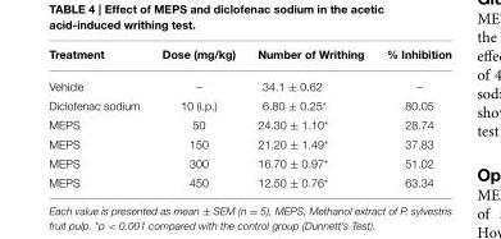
<table><thead><tr><td>Treatment</td><td>Dose (mg/kg)</td><td>Number of Writhing</td><td>% Inhibition</td></tr></thead><tbody><tr><td>Vehicle</td><td>–</td><td>34.1 ± 0.62</td><td>–</td></tr><tr><td>Diclofenac sodium</td><td>10 (i.p.)</td><td>6.80 ± 0.25*</td><td>80.05</td></tr><tr><td>MEPS</td><td>50</td><td>24.30 ± 1.10*</td><td>28.74</td></tr><tr><td>MEPS</td><td>150</td><td>21.20 ± 1.49*</td><td>37.83</td></tr><tr><td>MEPS</td><td>300</td><td>16.70 ± 0.97*</td><td>51.02</td></tr><tr><td>MEPS</td><td>450</td><td>12.50 ± 0.76*</td><td>63.34</td></tr></tbody></table>